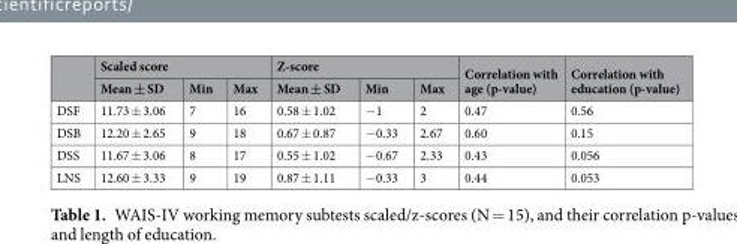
<table><thead><tr><td rowspan="2"></td><td colspan="3">Scaled score</td><td colspan="3">Z-score</td><td rowspan="2">Correlation with age (p-value)</td><td rowspan="2">Correlation with education (p-value)</td></tr><tr><td>Mean ± SD</td><td>Min</td><td>Max</td><td>Mean ± SD</td><td>Min</td><td>Max</td></tr></thead><tbody><tr><td>DSF</td><td>11.73 ± 3.06</td><td>7</td><td>16</td><td>0.58 ± 1.02</td><td>−1</td><td>2</td><td>0.47</td><td>0.56</td></tr><tr><td>DSB</td><td>12.20 ± 2.65</td><td>9</td><td>18</td><td>0.67 ± 0.87</td><td>−0.33</td><td>2.67</td><td>0.60</td><td>0.15</td></tr><tr><td>DSS</td><td>11.67 ± 3.06</td><td>8</td><td>17</td><td>0.55 ± 1.02</td><td>−0.67</td><td>2.33</td><td>0.43</td><td>0.056</td></tr><tr><td>LNS</td><td>12.60 ± 3.33</td><td>9</td><td>19</td><td>0.87 ± 1.11</td><td>−0.33</td><td>3</td><td>0.44</td><td>0.053</td></tr></tbody></table>